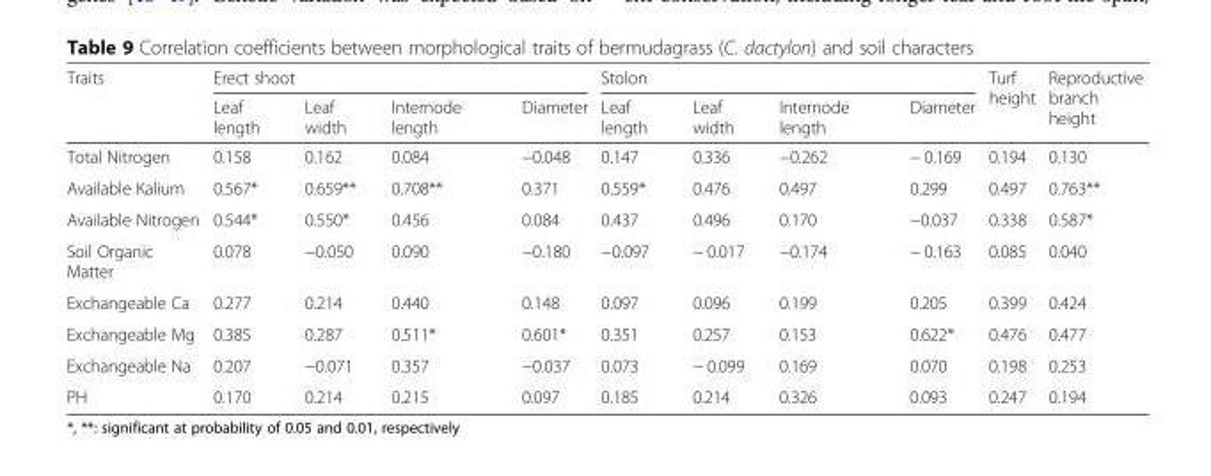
<table><thead><tr><td rowspan="2">Traits</td><td colspan="4">Erect shoot</td><td colspan="4">Stolon</td><td rowspan="2">Turf height</td><td rowspan="2">Reproductive branch height</td></tr><tr><td>Leaf length</td><td>Leaf width</td><td>Internode length</td><td>Diameter</td><td>Leaf length</td><td>Leaf width</td><td>Internode length</td><td>Diameter</td></tr></thead><tbody><tr><td>Total Nitrogen</td><td>0.158</td><td>0.162</td><td>0.084</td><td>−0.048</td><td>0.147</td><td>0.336</td><td>−0.262</td><td>− 0.169</td><td>0.194</td><td>0.130</td></tr><tr><td>Available Kalium</td><td>0.567*</td><td>0.659**</td><td>0.708**</td><td>0.371</td><td>0.559*</td><td>0.476</td><td>0.497</td><td>0.299</td><td>0.497</td><td>0.763**</td></tr><tr><td>Available Nitrogen</td><td>0.544*</td><td>0.550*</td><td>0.456</td><td>0.084</td><td>0.437</td><td>0.496</td><td>0.170</td><td>−0.037</td><td>0.338</td><td>0.587*</td></tr><tr><td>Soil Organic Matter</td><td>0.078</td><td>−0.050</td><td>0.090</td><td>−0.180</td><td>−0.097</td><td>− 0.017</td><td>−0.174</td><td>− 0.163</td><td>0.085</td><td>0.040</td></tr><tr><td>Exchangeable Ca</td><td>0.277</td><td>0.214</td><td>0.440</td><td>0.148</td><td>0.097</td><td>0.096</td><td>0.199</td><td>0.205</td><td>0.399</td><td>0.424</td></tr><tr><td>Exchangeable Mg</td><td>0.385</td><td>0.287</td><td>0.511*</td><td>0.601*</td><td>0.351</td><td>0.257</td><td>0.153</td><td>0.622*</td><td>0.476</td><td>0.477</td></tr><tr><td>Exchangeable Na</td><td>0.207</td><td>−0.071</td><td>0.357</td><td>−0.037</td><td>0.073</td><td>− 0.099</td><td>0.169</td><td>0.070</td><td>0.198</td><td>0.253</td></tr><tr><td>PH</td><td>0.170</td><td>0.214</td><td>0.215</td><td>0.097</td><td>0.185</td><td>0.214</td><td>0.326</td><td>0.093</td><td>0.247</td><td>0.194</td></tr></tbody></table>